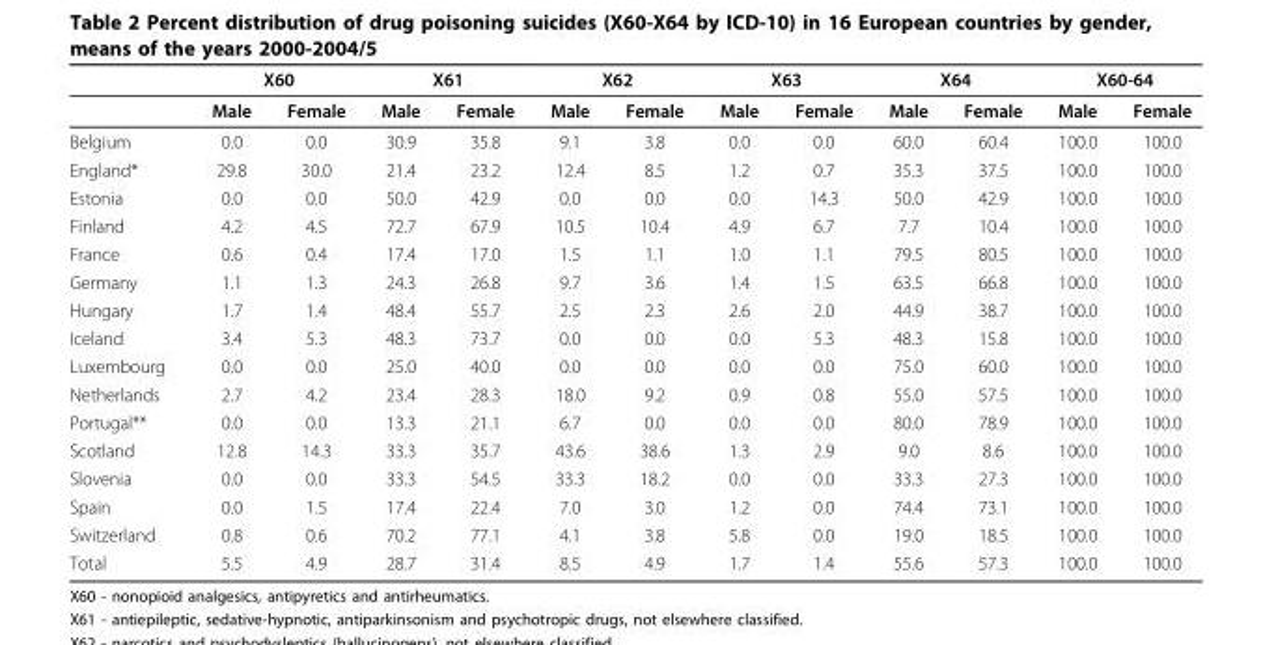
<table><thead><tr><td rowspan="2"></td><td colspan="2">X60</td><td colspan="2">X61</td><td colspan="2">X62</td><td colspan="2">X63</td><td colspan="2">X64</td><td colspan="2">X60-64</td></tr><tr><td>Male</td><td>Female</td><td>Male</td><td>Female</td><td>Male</td><td>Female</td><td>Male</td><td>Female</td><td>Male</td><td>Female</td><td>Male</td><td>Female</td></tr></thead><tbody><tr><td>Belgium</td><td>0.0</td><td>0.0</td><td>30.9</td><td>35.8</td><td>9.1</td><td>3.8</td><td>0.0</td><td>0.0</td><td>60.0</td><td>60.4</td><td>100.0</td><td>100.0</td></tr><tr><td>England*</td><td>29.8</td><td>30.0</td><td>21.4</td><td>23.2</td><td>12.4</td><td>8.5</td><td>1.2</td><td>0.7</td><td>35.3</td><td>37.5</td><td>100.0</td><td>100.0</td></tr><tr><td>Estonia</td><td>0.0</td><td>0.0</td><td>50.0</td><td>42.9</td><td>0.0</td><td>0.0</td><td>0.0</td><td>14.3</td><td>50.0</td><td>42.9</td><td>100.0</td><td>100.0</td></tr><tr><td>Finland</td><td>4.2</td><td>4.5</td><td>72.7</td><td>67.9</td><td>10.5</td><td>10.4</td><td>4.9</td><td>6.7</td><td>7.7</td><td>10.4</td><td>100.0</td><td>100.0</td></tr><tr><td>France</td><td>0.6</td><td>0.4</td><td>17.4</td><td>17.0</td><td>1.5</td><td>1.1</td><td>1.0</td><td>1.1</td><td>79.5</td><td>80.5</td><td>100.0</td><td>100.0</td></tr><tr><td>Germany</td><td>1.1</td><td>1.3</td><td>24.3</td><td>26.8</td><td>9.7</td><td>3.6</td><td>1.4</td><td>1.5</td><td>63.5</td><td>66.8</td><td>100.0</td><td>100.0</td></tr><tr><td>Hungary</td><td>1.7</td><td>1.4</td><td>48.4</td><td>55.7</td><td>2.5</td><td>2.3</td><td>2.6</td><td>2.0</td><td>44.9</td><td>38.7</td><td>100.0</td><td>100.0</td></tr><tr><td>Iceland</td><td>3.4</td><td>5.3</td><td>48.3</td><td>73.7</td><td>0.0</td><td>0.0</td><td>0.0</td><td>5.3</td><td>48.3</td><td>15.8</td><td>100.0</td><td>100.0</td></tr><tr><td>Luxembourg</td><td>0.0</td><td>0.0</td><td>25.0</td><td>40.0</td><td>0.0</td><td>0.0</td><td>0.0</td><td>0.0</td><td>75.0</td><td>60.0</td><td>100.0</td><td>100.0</td></tr><tr><td>Netherlands</td><td>2.7</td><td>4.2</td><td>23.4</td><td>28.3</td><td>18.0</td><td>9.2</td><td>0.9</td><td>0.8</td><td>55.0</td><td>57.5</td><td>100.0</td><td>100.0</td></tr><tr><td>Portugal**</td><td>0.0</td><td>0.0</td><td>13.3</td><td>21.1</td><td>6.7</td><td>0.0</td><td>0.0</td><td>0.0</td><td>80.0</td><td>78.9</td><td>100.0</td><td>100.0</td></tr><tr><td>Scotland</td><td>12.8</td><td>14.3</td><td>33.3</td><td>35.7</td><td>43.6</td><td>38.6</td><td>1.3</td><td>2.9</td><td>9.0</td><td>8.6</td><td>100.0</td><td>100.0</td></tr><tr><td>Slovenia</td><td>0.0</td><td>0.0</td><td>33.3</td><td>54.5</td><td>33.3</td><td>18.2</td><td>0.0</td><td>0.0</td><td>33.3</td><td>27.3</td><td>100.0</td><td>100.0</td></tr><tr><td>Spain</td><td>0.0</td><td>1.5</td><td>17.4</td><td>22.4</td><td>7.0</td><td>3.0</td><td>1.2</td><td>0.0</td><td>74.4</td><td>73.1</td><td>100.0</td><td>100.0</td></tr><tr><td>Switzerland</td><td>0.8</td><td>0.6</td><td>70.2</td><td>77.1</td><td>4.1</td><td>3.8</td><td>5.8</td><td>0.0</td><td>19.0</td><td>18.5</td><td>100.0</td><td>100.0</td></tr><tr><td>Total</td><td>5.5</td><td>4.9</td><td>28.7</td><td>31.4</td><td>8.5</td><td>4.9</td><td>1.7</td><td>1.4</td><td>55.6</td><td>57.3</td><td>100.0</td><td>100.0</td></tr></tbody></table>